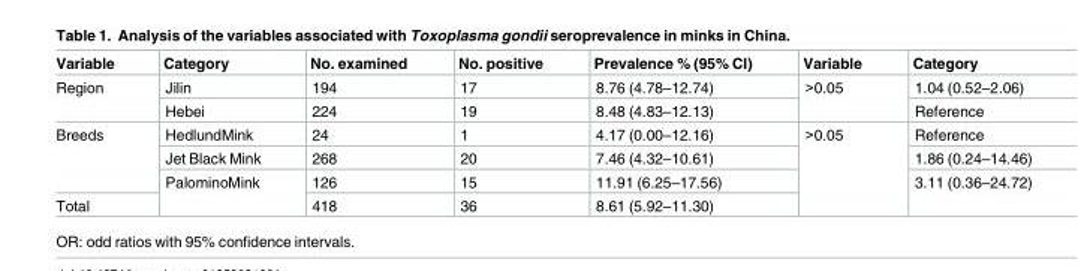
<table><thead><tr><td>Variable</td><td>Category</td><td>No. examined</td><td>No. positive</td><td>Prevalence % (95% CI)</td><td>Variable</td><td>Category</td></tr></thead><tbody><tr><td rowspan="2">Region</td><td>Jilin</td><td>194</td><td>17</td><td>8.76 (4.78–12.74)</td><td rowspan="2">&gt;0.05</td><td>1.04 (0.52–2.06)</td></tr><tr><td>Hebei</td><td>224</td><td>19</td><td>8.48 (4.83–12.13)</td><td>Reference</td></tr><tr><td rowspan="3">Breeds</td><td>HedlundMink</td><td>24</td><td>1</td><td>4.17 (0.00–12.16)</td><td rowspan="4">&gt;0.05</td><td>Reference</td></tr><tr><td>Jet Black Mink</td><td>268</td><td>20</td><td>7.46 (4.32–10.61)</td><td>1.86 (0.24–14.46)</td></tr><tr><td rowspan="2">PalominoMink</td><td>126</td><td>15</td><td>11.91 (6.25–17.56)</td><td rowspan="2">3.11 (0.36–24.72)</td></tr><tr><td>Total</td><td>418</td><td>36</td><td>8.61 (5.92–11.30)</td></tr></tbody></table>